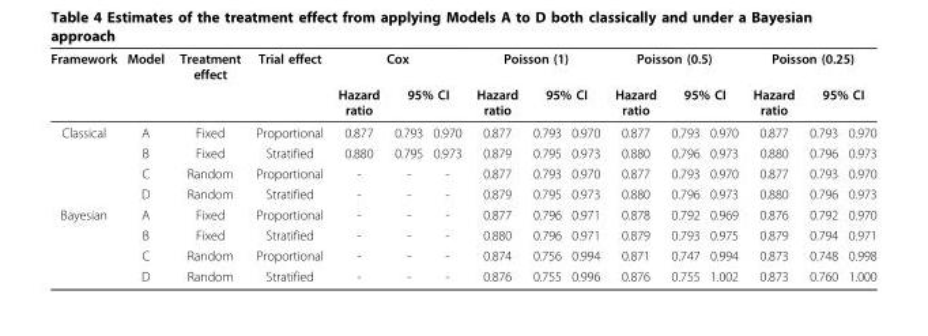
<table><thead><tr><td rowspan="3">Framework Classical</td><td rowspan="3">Model A</td><td rowspan="3">Treatment effect Fixed</td><td rowspan="3">Trial effect Proportional</td><td colspan="3">Cox</td><td colspan="3">Poisson (1)</td><td colspan="3">Poisson (0.5)</td><td colspan="3">Poisson (0.25)</td></tr><tr><td rowspan="2">Hazard ratio 0.877</td><td colspan="2">95% CI</td><td rowspan="2">Hazard ratio 0.877</td><td colspan="2">95% CI</td><td rowspan="2">Hazard ratio 0.877</td><td colspan="2">95% CI</td><td rowspan="2">Hazard ratio 0.877</td><td colspan="2">95% CI</td></tr><tr><td>0.793</td><td>0.970</td><td>0.793</td><td>0.970</td><td>0.793</td><td>0.970</td><td>0.793</td><td>0.970</td></tr></thead><tbody><tr><td></td><td>B</td><td>Fixed</td><td>Stratified</td><td>0.880</td><td>0.795</td><td>0.973</td><td>0.879</td><td>0.795</td><td>0.973</td><td>0.880</td><td>0.796</td><td>0.973</td><td>0.880</td><td>0.796</td><td>0.973</td></tr><tr><td></td><td>C</td><td>Random</td><td>Proportional</td><td>-</td><td>-</td><td>-</td><td>0.877</td><td>0.793</td><td>0.970</td><td>0.877</td><td>0.793</td><td>0.970</td><td>0.877</td><td>0.793</td><td>0.970</td></tr><tr><td></td><td>D</td><td>Random</td><td>Stratified</td><td>-</td><td>-</td><td>-</td><td>0.879</td><td>0.795</td><td>0.973</td><td>0.880</td><td>0.796</td><td>0.973</td><td>0.880</td><td>0.796</td><td>0.973</td></tr><tr><td rowspan="4">Bayesian</td><td>A</td><td>Fixed</td><td>Proportional</td><td>-</td><td>-</td><td>-</td><td>0.877</td><td>0.796</td><td>0.971</td><td>0.878</td><td>0.792</td><td>0.969</td><td>0.876</td><td>0.792</td><td>0.970</td></tr><tr><td>B</td><td>Fixed</td><td>Stratified</td><td>-</td><td>-</td><td>-</td><td>0.880</td><td>0.796</td><td>0.971</td><td>0.879</td><td>0.793</td><td>0.975</td><td>0.879</td><td>0.794</td><td>0.971</td></tr><tr><td>C</td><td>Random</td><td>Proportional</td><td>-</td><td>-</td><td>-</td><td>0.874</td><td>0.756</td><td>0.994</td><td>0.871</td><td>0.747</td><td>0.994</td><td>0.873</td><td>0.748</td><td>0.998</td></tr><tr><td>D</td><td>Random</td><td>Stratified</td><td>-</td><td>-</td><td>-</td><td>0.876</td><td>0.755</td><td>0.996</td><td>0.876</td><td>0.755</td><td>1.002</td><td>0.873</td><td>0.760</td><td>1.000</td></tr></tbody></table>